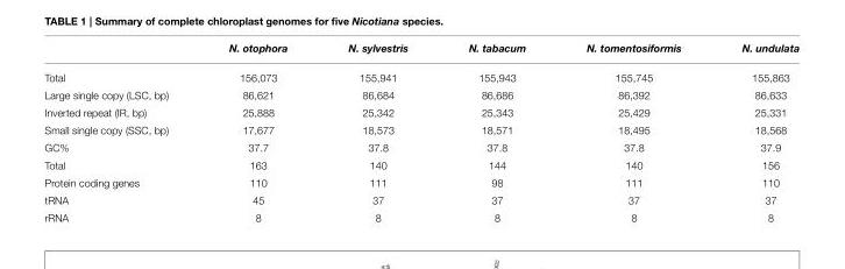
<table><thead><tr><td></td><td>N. otophora</td><td>N. sylvestris</td><td>N. tabacum</td><td>N. tomentosiformis</td><td>N. undulata</td></tr></thead><tbody><tr><td>Total</td><td>156,073</td><td>155,941</td><td>155,943</td><td>155,745</td><td>155,863</td></tr><tr><td>Large single copy (LSC, bp)</td><td>86,621</td><td>86,684</td><td>86,686</td><td>86,392</td><td>86,633</td></tr><tr><td>Inverted repeat (IR, bp)</td><td>25,888</td><td>25,342</td><td>25,343</td><td>25,429</td><td>25,331</td></tr><tr><td>Small single copy (SSC, bp)</td><td>17,677</td><td>18,573</td><td>18,571</td><td>18,495</td><td>18,568</td></tr><tr><td>GC%</td><td>37.7</td><td>37.8</td><td>37.8</td><td>37.8</td><td>37.9</td></tr><tr><td>Total</td><td>163</td><td>140</td><td>144</td><td>140</td><td>156</td></tr><tr><td>Protein coding genes</td><td>110</td><td>111</td><td>98</td><td>111</td><td>110</td></tr><tr><td>tRNA</td><td>45</td><td>37</td><td>37</td><td>37</td><td>37</td></tr><tr><td>rRNA</td><td>8</td><td>8</td><td>8</td><td>8</td><td>8</td></tr></tbody></table>